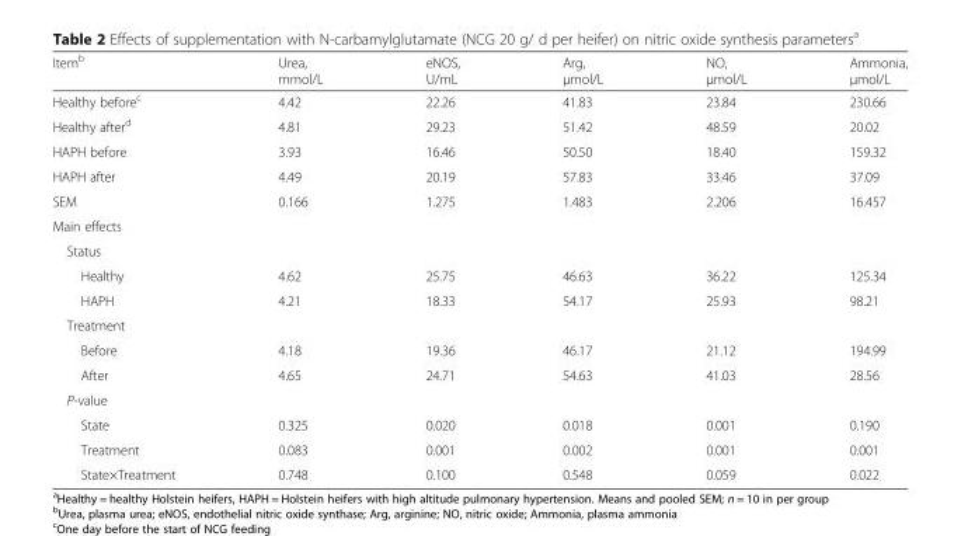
<table><thead><tr><td>Item<sup>b</sup></td><td>Urea, mmol/L</td><td>eNOS, U/mL</td><td>Arg, μmol/L</td><td>NO, μmol/L</td><td>Ammonia, μmol/L</td></tr></thead><tbody><tr><td>Healthy before<sup>c</sup></td><td>4.42</td><td>22.26</td><td>41.83</td><td>23.84</td><td>230.66</td></tr><tr><td>Healthy after<sup>d</sup></td><td>4.81</td><td>29.23</td><td>51.42</td><td>48.59</td><td>20.02</td></tr><tr><td>HAPH before</td><td>3.93</td><td>16.46</td><td>50.50</td><td>18.40</td><td>159.32</td></tr><tr><td>HAPH after</td><td>4.49</td><td>20.19</td><td>57.83</td><td>33.46</td><td>37.09</td></tr><tr><td>SEM</td><td>0.166</td><td>1.275</td><td>1.483</td><td>2.206</td><td>16.457</td></tr><tr><td colspan="6">Main effects</td></tr><tr><td colspan="6">Status</td></tr><tr><td>Healthy</td><td>4.62</td><td>25.75</td><td>46.63</td><td>36.22</td><td>125.34</td></tr><tr><td>HAPH</td><td>4.21</td><td>18.33</td><td>54.17</td><td>25.93</td><td>98.21</td></tr><tr><td colspan="6">Treatment</td></tr><tr><td>Before</td><td>4.18</td><td>19.36</td><td>46.17</td><td>21.12</td><td>194.99</td></tr><tr><td>After</td><td>4.65</td><td>24.71</td><td>54.63</td><td>41.03</td><td>28.56</td></tr><tr><td colspan="6">P-value</td></tr><tr><td>State</td><td>0.325</td><td>0.020</td><td>0.018</td><td>0.001</td><td>0.190</td></tr><tr><td>Treatment</td><td>0.083</td><td>0.001</td><td>0.002</td><td>0.001</td><td>0.001</td></tr><tr><td>State×Treatment</td><td>0.748</td><td>0.100</td><td>0.548</td><td>0.059</td><td>0.022</td></tr></tbody></table>